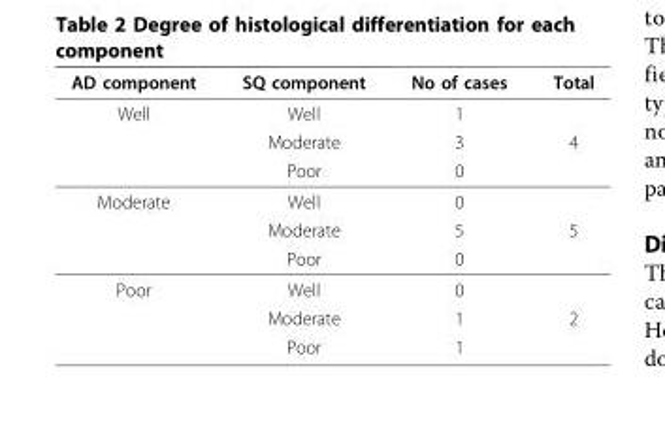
<table><thead><tr><td>AD component</td><td>SQ component</td><td>No of cases</td><td>Total</td></tr></thead><tbody><tr><td rowspan="3">Well</td><td>Well</td><td>1</td><td></td></tr><tr><td>Moderate</td><td>3</td><td>4</td></tr><tr><td>Poor</td><td>0</td><td></td></tr><tr><td rowspan="3">Moderate</td><td>Well</td><td>0</td><td></td></tr><tr><td>Moderate</td><td>5</td><td>5</td></tr><tr><td>Poor</td><td>0</td><td></td></tr><tr><td rowspan="3">Poor</td><td>Well</td><td>0</td><td></td></tr><tr><td>Moderate</td><td>1</td><td>2</td></tr><tr><td>Poor</td><td>1</td><td></td></tr></tbody></table>